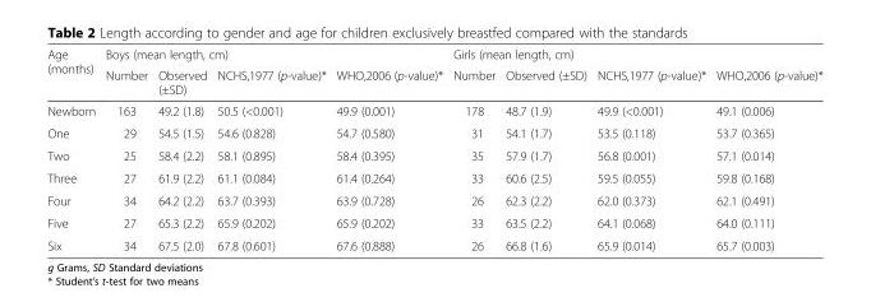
<table><thead><tr><td rowspan="2">Age (months)</td><td colspan="4">Boys (mean length, cm)</td><td colspan="4">Girls (mean length, cm)</td></tr><tr><td>Number</td><td>Observed (±SD)</td><td>NCHS,1977 (p-value)*</td><td>WHO,2006 (p-value)*</td><td>Number</td><td>Observed (±SD)</td><td>NCHS,1977 (p-value)*</td><td>WHO,2006 (p-value)*</td></tr></thead><tbody><tr><td>Newborn</td><td>163</td><td>49.2 (1.8)</td><td>50.5 (&lt;0.001)</td><td>49.9 (0.001)</td><td>178</td><td>48.7 (1.9)</td><td>49.9 (&lt;0.001)</td><td>49.1 (0.006)</td></tr><tr><td>One</td><td>29</td><td>54.5 (1.5)</td><td>54.6 (0.828)</td><td>54.7 (0.580)</td><td>31</td><td>54.1 (1.7)</td><td>53.5 (0.118)</td><td>53.7 (0.365)</td></tr><tr><td>Two</td><td>25</td><td>58.4 (2.2)</td><td>58.1 (0.895)</td><td>58.4 (0.395)</td><td>35</td><td>57.9 (1.7)</td><td>56.8 (0.001)</td><td>57.1 (0.014)</td></tr><tr><td>Three</td><td>27</td><td>61.9 (2.2)</td><td>61.1 (0.084)</td><td>61.4 (0.264)</td><td>33</td><td>60.6 (2.5)</td><td>59.5 (0.055)</td><td>59.8 (0.168)</td></tr><tr><td>Four</td><td>34</td><td>64.2 (2.2)</td><td>63.7 (0.393)</td><td>63.9 (0.728)</td><td>26</td><td>62.3 (2.2)</td><td>62.0 (0.373)</td><td>62.1 (0.491)</td></tr><tr><td>Five</td><td>27</td><td>65.3 (2.2)</td><td>65.9 (0.202)</td><td>65.9 (0.202)</td><td>33</td><td>63.5 (2.2)</td><td>64.1 (0.068)</td><td>64.0 (0.111)</td></tr><tr><td>Six</td><td>34</td><td>67.5 (2.0)</td><td>67.8 (0.601)</td><td>67.6 (0.888)</td><td>26</td><td>66.8 (1.6)</td><td>65.9 (0.014)</td><td>65.7 (0.003)</td></tr></tbody></table>